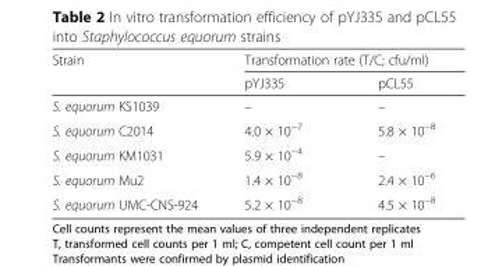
<table><thead><tr><td rowspan="2">Strain</td><td colspan="2">Transformation rate (T/C; cfu/ml)</td></tr><tr><td>pYJ335</td><td>pCL55</td></tr></thead><tbody><tr><td>S. equorum KS1039</td><td>–</td><td>–</td></tr><tr><td>S. equorum C2014</td><td>4.0 × 10<sup>−7</sup></td><td>5.8 × 10<sup>−8</sup></td></tr><tr><td>S. equorum KM1031</td><td>5.9 × 10<sup>−4</sup></td><td>–</td></tr><tr><td>S. equorum Mu2</td><td>1.4 × 10<sup>−8</sup></td><td>2.4 × 10<sup>−6</sup></td></tr><tr><td>S. equorum UMC-CNS-924</td><td>5.2 × 10<sup>−8</sup></td><td>4.5 × 10<sup>−8</sup></td></tr></tbody></table>